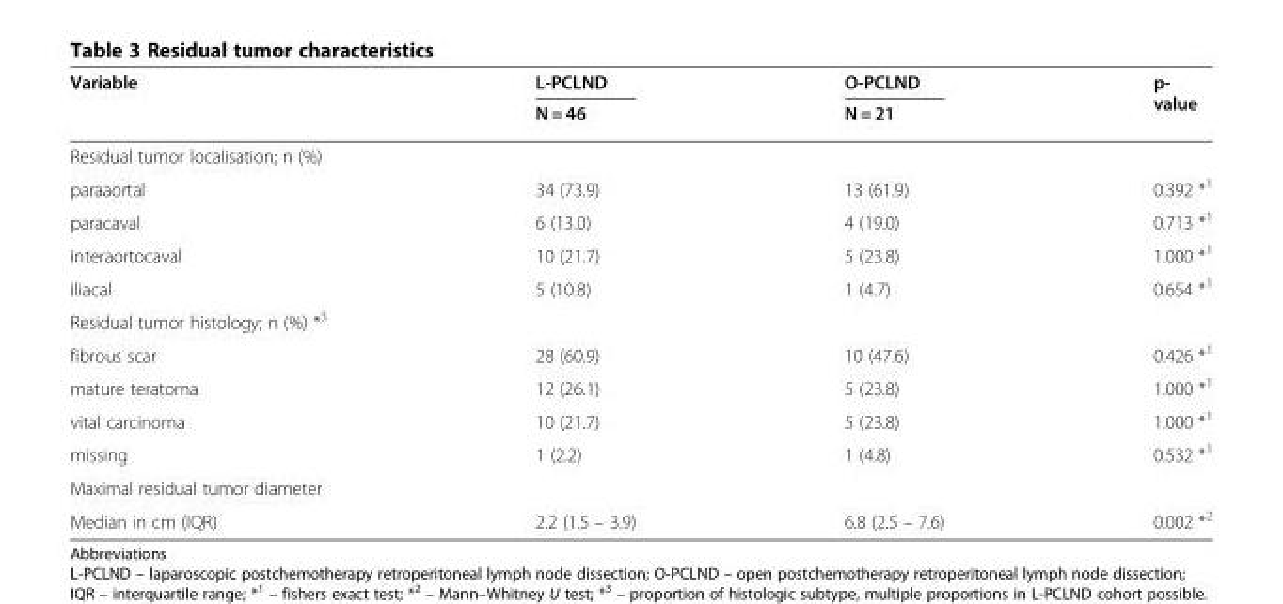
<table><thead><tr><td rowspan="2">Variable</td><td rowspan="2">L-PCLND N = 46</td><td rowspan="2">O-PCLND N = 21</td><td rowspan="2">p- value</td></tr><tr></tr></thead><tbody><tr><td colspan="4">Residual tumor localisation; n (%)</td></tr><tr><td>paraaortal</td><td>34 (73.9)</td><td>13 (61.9)</td><td>0.392 *<sup>1</sup></td></tr><tr><td>paracaval</td><td>6 (13.0)</td><td>4 (19.0)</td><td>0.713 *<sup>1</sup></td></tr><tr><td>interaortocaval</td><td>10 (21.7)</td><td>5 (23.8)</td><td>1.000 *<sup>1</sup></td></tr><tr><td>iliacal</td><td>5 (10.8)</td><td>1 (4.7)</td><td>0.654 *<sup>1</sup></td></tr><tr><td colspan="4">Residual tumor histology; n (%) *<sup>3</sup></td></tr><tr><td>fibrous scar</td><td>28 (60.9)</td><td>10 (47.6)</td><td>0.426 *<sup>1</sup></td></tr><tr><td>mature teratoma</td><td>12 (26.1)</td><td>5 (23.8)</td><td>1.000 *<sup>1</sup></td></tr><tr><td>vital carcinoma</td><td>10 (21.7)</td><td>5 (23.8)</td><td>1.000 *<sup>1</sup></td></tr><tr><td>missing</td><td>1 (2.2)</td><td>1 (4.8)</td><td>0.532 *<sup>1</sup></td></tr><tr><td colspan="4">Maximal residual tumor diameter</td></tr><tr><td>Median in cm (IQR)</td><td>2.2 (1.5 – 3.9)</td><td>6.8 (2.5 – 7.6)</td><td>0.002 *<sup>2</sup></td></tr></tbody></table>